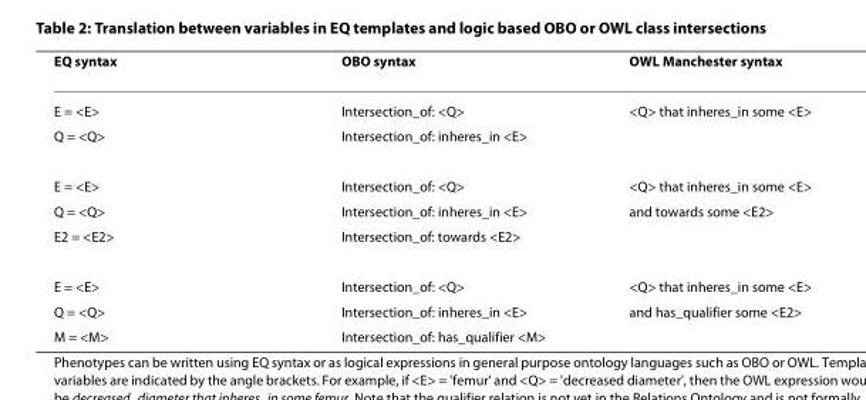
<table><thead><tr><td>EQ syntax</td><td>OBO syntax</td><td>OWL Manchester syntax</td></tr></thead><tbody><tr><td>E = &lt;E&gt;</td><td>Intersection_of: &lt;Q&gt;</td><td>&lt;Q&gt; that inheres_in some &lt;E&gt;</td></tr><tr><td>Q = &lt;Q&gt;</td><td>Intersection_of: inheres_in &lt;E&gt;</td><td></td></tr><tr><td>E = &lt;E&gt;</td><td>Intersection_of: &lt;Q&gt;</td><td>&lt;Q&gt; that inheres_in some &lt;E&gt;</td></tr><tr><td>Q = &lt;Q&gt;</td><td>Intersection_of: inheres_in &lt;E&gt;</td><td>and towards some &lt;E2&gt;</td></tr><tr><td>E2 = &lt;E2&gt;</td><td>Intersection_of: towards &lt;E2&gt;</td><td></td></tr><tr><td>E = &lt;E&gt;</td><td>Intersection_of: &lt;Q&gt;</td><td>&lt;Q&gt; that inheres_in some &lt;E&gt;</td></tr><tr><td>Q = &lt;Q&gt;</td><td>Intersection_of: inheres_in &lt;E&gt;</td><td>and has_qualifier some &lt;E2&gt;</td></tr><tr><td>M = &lt;M&gt;</td><td>Intersection_of: has_qualifier &lt;M&gt;</td><td></td></tr></tbody></table>